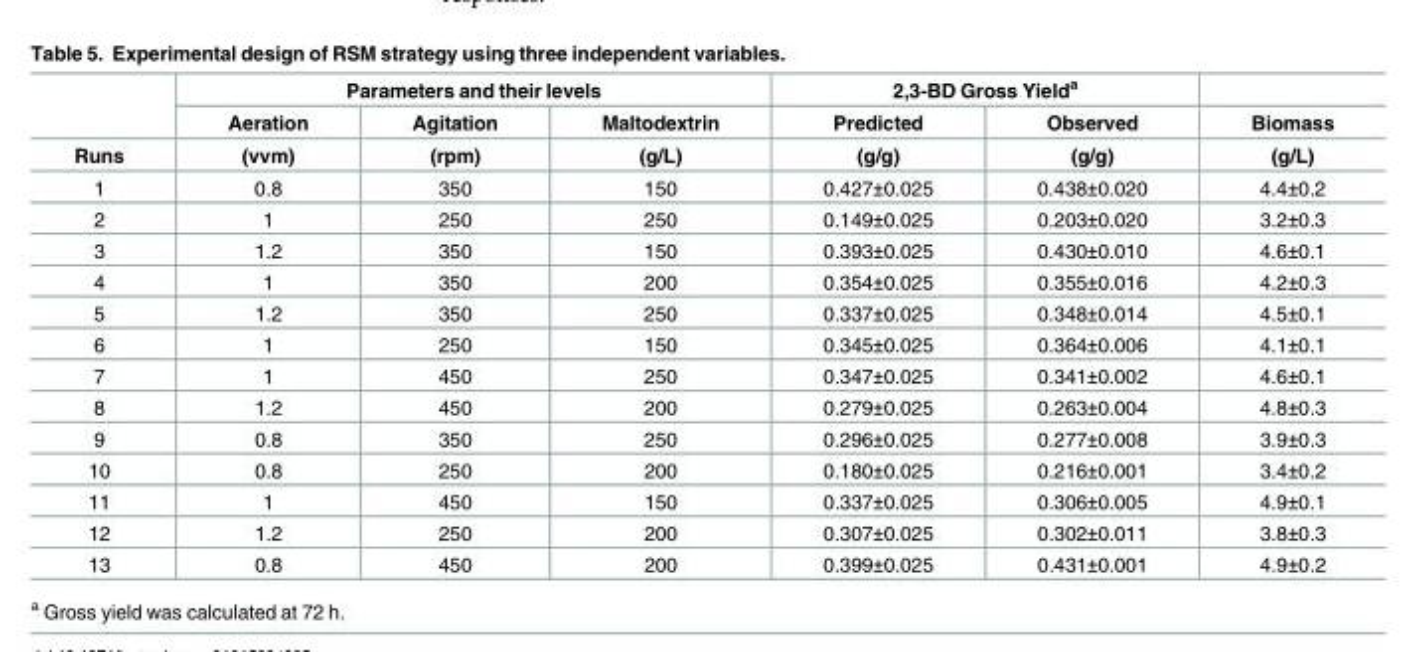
<table><thead><tr><td rowspan="3">Runs</td><td colspan="3">Parameters and their levels</td><td colspan="2">2,3-BD Gross Yield<sup>a</sup></td><td rowspan="3">Biomass (g/L)</td></tr><tr><td rowspan="2">Aeration (vvm)</td><td rowspan="2">Agitation (rpm)</td><td rowspan="2">Maltodextrin (g/L)</td><td rowspan="2">Predicted (g/g)</td><td rowspan="2">Observed (g/g)</td></tr><tr></tr></thead><tbody><tr><td>1</td><td>0.8</td><td>350</td><td>150</td><td>0.427±0.025</td><td>0.438±0.020</td><td>4.4±0.2</td></tr><tr><td>2</td><td>1</td><td>250</td><td>250</td><td>0.149±0.025</td><td>0.203±0.020</td><td>3.2±0.3</td></tr><tr><td>3</td><td>1.2</td><td>350</td><td>150</td><td>0.393±0.025</td><td>0.430±0.010</td><td>4.6±0.1</td></tr><tr><td>4</td><td>1</td><td>350</td><td>200</td><td>0.354±0.025</td><td>0.355±0.016</td><td>4.2±0.3</td></tr><tr><td>5</td><td>1.2</td><td>350</td><td>250</td><td>0.337±0.025</td><td>0.348±0.014</td><td>4.5±0.1</td></tr><tr><td>6</td><td>1</td><td>250</td><td>150</td><td>0.345±0.025</td><td>0.364±0.006</td><td>4.1±0.1</td></tr><tr><td>7</td><td>1</td><td>450</td><td>250</td><td>0.347±0.025</td><td>0.341±0.002</td><td>4.6±0.1</td></tr><tr><td>8</td><td>1.2</td><td>450</td><td>200</td><td>0.279±0.025</td><td>0.263±0.004</td><td>4.8±0.3</td></tr><tr><td>9</td><td>0.8</td><td>350</td><td>250</td><td>0.296±0.025</td><td>0.277±0.008</td><td>3.9±0.3</td></tr><tr><td>10</td><td>0.8</td><td>250</td><td>200</td><td>0.180±0.025</td><td>0.216±0.001</td><td>3.4±0.2</td></tr><tr><td>11</td><td>1</td><td>450</td><td>150</td><td>0.337±0.025</td><td>0.306±0.005</td><td>4.9±0.1</td></tr><tr><td>12</td><td>1.2</td><td>250</td><td>200</td><td>0.307±0.025</td><td>0.302±0.011</td><td>3.8±0.3</td></tr><tr><td>13</td><td>0.8</td><td>450</td><td>200</td><td>0.399±0.025</td><td>0.431±0.001</td><td>4.9±0.2</td></tr></tbody></table>